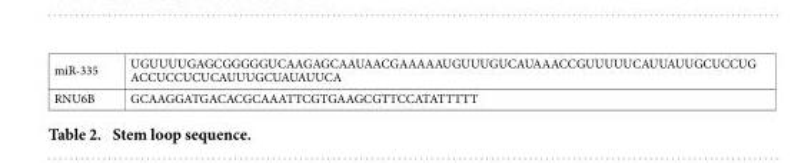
<table><tbody><tr><td>miR-335</td><td>UGUUUUGAGCGGGGGUCAAGAGCAAUAACGAAAAAUGUUUGUCAUAAACCGUUUUUCAUUAUUGCUCCUG ACCUCCUCUCAUUUGCUAUAUUCA</td></tr><tr><td>RNU6B</td><td>GCAAGGATGACACGCAAATTCGTGAAGCGTTCCATATTTTT</td></tr></tbody></table>